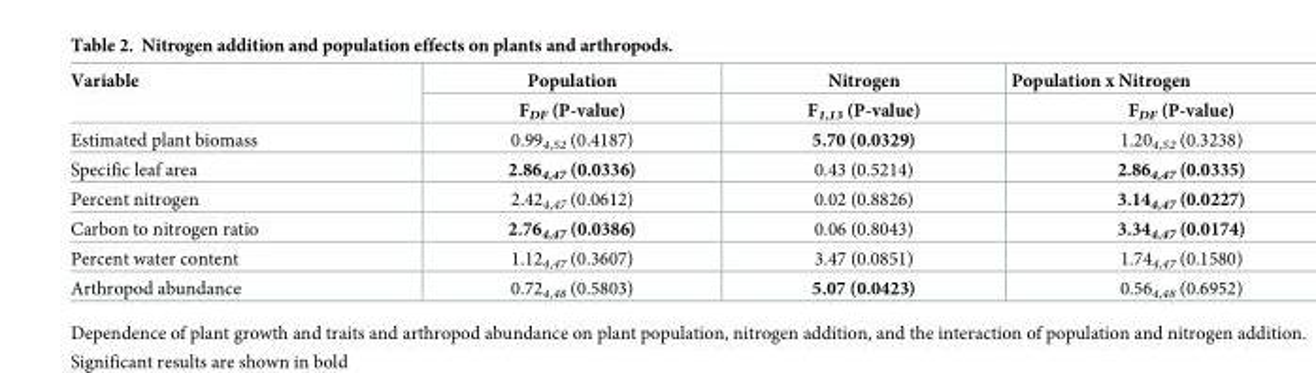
<table><thead><tr><td rowspan="2">Variable</td><td rowspan="2">Population F<sub>DF</sub> (P-value)</td><td rowspan="2">Nitrogen F<sub>1,13</sub> (P-value)</td><td rowspan="2">Population x Nitrogen F<sub>DF</sub> (P-value)</td></tr><tr></tr></thead><tbody><tr><td>Estimated plant biomass</td><td>0.99<sub>4,52</sub> (0.4187)</td><td>5.70 (0.0329)</td><td>1.20<sub>4,52</sub> (0.3238)</td></tr><tr><td>Specific leaf area</td><td>2.86<sub>4,47</sub> (0.0336)</td><td>0.43 (0.5214)</td><td>2.86<sub>4,47</sub> (0.0335)</td></tr><tr><td>Percent nitrogen</td><td>2.42<sub>4,47</sub> (0.0612)</td><td>0.02 (0.8826)</td><td>3.14<sub>4,47</sub> (0.0227)</td></tr><tr><td>Carbon to nitrogen ratio</td><td>2.76<sub>4,47</sub> (0.0386)</td><td>0.06 (0.8043)</td><td>3.34<sub>4,47</sub> (0.0174)</td></tr><tr><td>Percent water content</td><td>1.12<sub>4,47</sub> (0.3607)</td><td>3.47 (0.0851)</td><td>1.74<sub>4,47</sub> (0.1580)</td></tr><tr><td>Arthropod abundance</td><td>0.72<sub>4,48</sub> (0.5803)</td><td>5.07 (0.0423)</td><td>0.56<sub>4,48</sub> (0.6952)</td></tr></tbody></table>